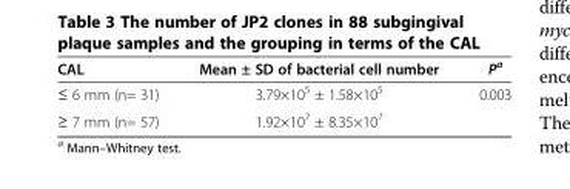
<table><thead><tr><td>CAL</td><td>Mean ± SD of bacterial cell number</td><td>P<sup>a</sup></td></tr></thead><tbody><tr><td>≤ 6 mm (n= 31)</td><td>3.79×10<sup>5</sup> ± 1.58×10<sup>5</sup></td><td>0.003</td></tr><tr><td>≥ 7 mm (n= 57)</td><td>1.92×10<sup>7</sup> ± 8.35×10<sup>7</sup></td><td></td></tr></tbody></table>